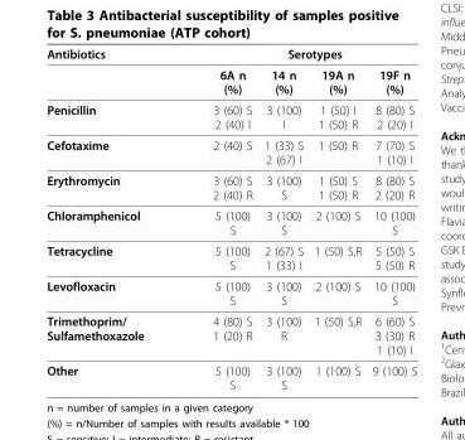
<table><thead><tr><td rowspan="2">Antibiotics</td><td colspan="4">Serotypes</td></tr><tr><td>6A n (%)</td><td>14 n (%)</td><td>19A n (%)</td><td>19F n (%)</td></tr></thead><tbody><tr><td>Penicillin</td><td>3 (60) S 2 (40) I</td><td>3 (100) I</td><td>1 (50) I 1 (50) R</td><td>8 (80) S 2 (20) I</td></tr><tr><td>Cefotaxime</td><td>2 (40) S</td><td>1 (33) S 2 (67) I</td><td>1 (50) R</td><td>7 (70) S 1 (10) I</td></tr><tr><td>Erythromycin</td><td>3 (60) S 2 (40) R</td><td>3 (100) S</td><td>1 (50) S 1 (50) R</td><td>8 (80) S 2 (20) R</td></tr><tr><td>Chloramphenicol</td><td>5 (100) S</td><td>3 (100) S</td><td>2 (100) S</td><td>10 (100) S</td></tr><tr><td>Tetracycline</td><td>5 (100) S</td><td>2 (67) S 1 (33) I</td><td>1 (50) S,R</td><td>5 (50) S 5 (50) R</td></tr><tr><td>Levofloxacin</td><td>5 (100) S</td><td>3 (100) S</td><td>2 (100) S</td><td>10 (100) S</td></tr><tr><td>Trimethoprim/ Sulfamethoxazole</td><td>4 (80) S 1 (20) R</td><td>3 (100) R</td><td>1 (50) S,R</td><td>6 (60) S 3 (30) R 1 (10) I</td></tr><tr><td>Other</td><td>5 (100) S</td><td>3 (100) S</td><td>1 (100) S</td><td>9 (100) S</td></tr></tbody></table>